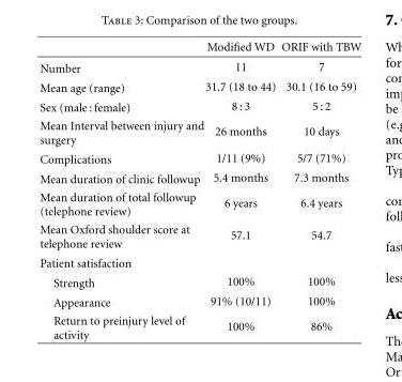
<table><thead><tr><td></td><td>Modified WD</td><td>ORIF with TBW</td></tr></thead><tbody><tr><td>Number</td><td>11</td><td>7</td></tr><tr><td>Mean age (range)</td><td>31.7 (18 to 44)</td><td>30.1 (16 to 59)</td></tr><tr><td>Sex (male : female)</td><td>8 : 3</td><td>5 : 2</td></tr><tr><td>Mean Interval between injury and surgery</td><td>26 months</td><td>10 days</td></tr><tr><td>Complications</td><td>1/11 (9%)</td><td>5/7 (71%)</td></tr><tr><td>Mean duration of clinic followup</td><td>5.4 months</td><td>7.3 months</td></tr><tr><td>Mean duration of total followup (telephone review)</td><td>6 years</td><td>6.4 years</td></tr><tr><td>Mean Oxford shoulder score at telephone review</td><td>57.1</td><td>54.7</td></tr><tr><td colspan="3">Patient satisfaction</td></tr><tr><td>Strength</td><td>100%</td><td>100%</td></tr><tr><td>Appearance</td><td>91% (10/11)</td><td>100%</td></tr><tr><td>Return to preinjury level of activity</td><td>100%</td><td>86%</td></tr></tbody></table>